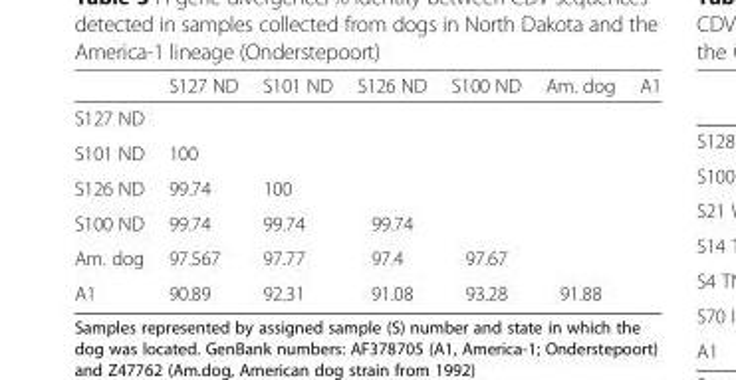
<table><thead><tr><td></td><td>S127 ND</td><td>S101 ND</td><td>S126 ND</td><td>S100 ND</td><td>Am. dog</td><td>A1</td></tr></thead><tbody><tr><td colspan="7">S127 ND</td></tr><tr><td>S101 ND</td><td>100</td><td></td><td></td><td></td><td></td><td></td></tr><tr><td>S126 ND</td><td>99.74</td><td>100</td><td></td><td></td><td></td><td></td></tr><tr><td>S100 ND</td><td>99.74</td><td>99.74</td><td>99.74</td><td></td><td></td><td></td></tr><tr><td>Am. dog</td><td>97.567</td><td>97.77</td><td>97.4</td><td>97.67</td><td></td><td></td></tr><tr><td>A1</td><td>90.89</td><td>92.31</td><td>91.08</td><td>93.28</td><td>91.88</td><td></td></tr></tbody></table>